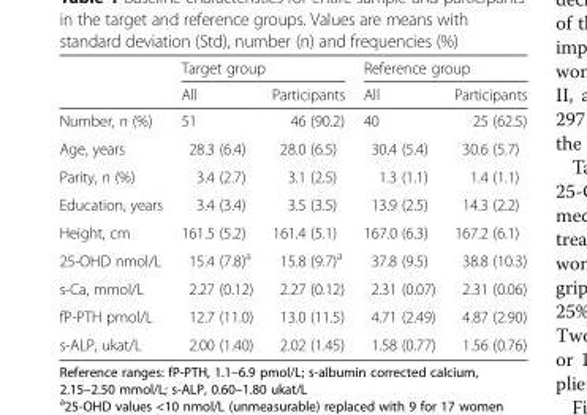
<table><thead><tr><td rowspan="2"></td><td colspan="2">Target group</td><td colspan="2">Reference group</td></tr><tr><td>All</td><td>Participants</td><td>All</td><td>Participants</td></tr></thead><tbody><tr><td>Number, n (%)</td><td>51</td><td>46 (90.2)</td><td>40</td><td>25 (62.5)</td></tr><tr><td>Age, years</td><td>28.3 (6.4)</td><td>28.0 (6.5)</td><td>30.4 (5.4)</td><td>30.6 (5.7)</td></tr><tr><td>Parity, n (%)</td><td>3.4 (2.7)</td><td>3.1 (2.5)</td><td>1.3 (1.1)</td><td>1.4 (1.1)</td></tr><tr><td>Education, years</td><td>3.4 (3.4)</td><td>3.5 (3.5)</td><td>13.9 (2.5)</td><td>14.3 (2.2)</td></tr><tr><td>Height, cm</td><td>161.5 (5.2)</td><td>161.4 (5.1)</td><td>167.0 (6.3)</td><td>167.2 (6.1)</td></tr><tr><td>25-OHD nmol/L</td><td>15.4 (7.8)<sup>a</sup></td><td>15.8 (9.7)<sup>a</sup></td><td>37.8 (9.5)</td><td>38.8 (10.3)</td></tr><tr><td>s-Ca, mmol/L</td><td>2.27 (0.12)</td><td>2.27 (0.12)</td><td>2.31 (0.07)</td><td>2.31 (0.06)</td></tr><tr><td>fP-PTH pmol/L</td><td>12.7 (11.0)</td><td>13.0 (11.5)</td><td>4.71 (2.49)</td><td>4.87 (2.90)</td></tr><tr><td>s-ALP, ukat/L</td><td>2.00 (1.40)</td><td>2.02 (1.45)</td><td>1.58 (0.77)</td><td>1.56 (0.76)</td></tr></tbody></table>